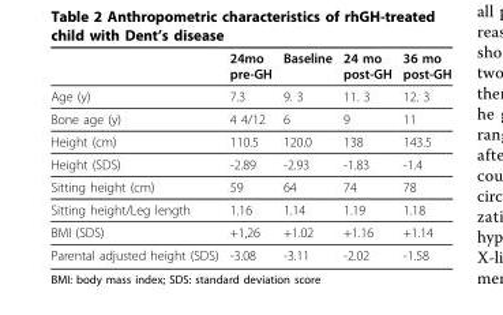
<table><thead><tr><td></td><td>24mo pre-GH</td><td>Baseline</td><td>24 mo post-GH</td><td>36 mo post-GH</td></tr></thead><tbody><tr><td>Age (y)</td><td>7.3</td><td>9. 3</td><td>11. 3</td><td>12. 3</td></tr><tr><td>Bone age (y)</td><td>4 4/12</td><td>6</td><td>9</td><td>11</td></tr><tr><td>Height (cm)</td><td>110.5</td><td>120.0</td><td>138</td><td>143.5</td></tr><tr><td>Height (SDS)</td><td>-2.89</td><td>-2.93</td><td>-1.83</td><td>-1.4</td></tr><tr><td>Sitting height (cm)</td><td>59</td><td>64</td><td>74</td><td>78</td></tr><tr><td>Sitting height/Leg length</td><td>1.16</td><td>1.14</td><td>1.19</td><td>1.18</td></tr><tr><td>BMI (SDS)</td><td>+1,26</td><td>+1.02</td><td>+1.16</td><td>+1.14</td></tr><tr><td>Parental adjusted height (SDS)</td><td>-3.08</td><td>-3.11</td><td>-2.02</td><td>-1.58</td></tr></tbody></table>